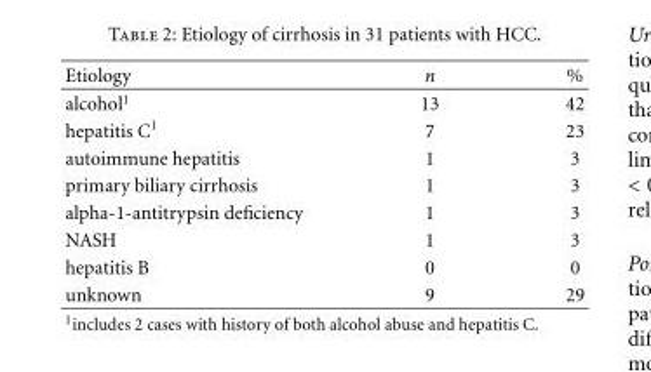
<table><thead><tr><td>Etiology</td><td>n</td><td>%</td></tr></thead><tbody><tr><td>alcohol<sup>1</sup></td><td>13</td><td>42</td></tr><tr><td>hepatitis C<sup>1</sup></td><td>7</td><td>23</td></tr><tr><td>autoimmune hepatitis</td><td>1</td><td>3</td></tr><tr><td>primary biliary cirrhosis</td><td>1</td><td>3</td></tr><tr><td>alpha-1-antitrypsin deficiency</td><td>1</td><td>3</td></tr><tr><td>NASH</td><td>1</td><td>3</td></tr><tr><td>hepatitis B</td><td>0</td><td>0</td></tr><tr><td>unknown</td><td>9</td><td>29</td></tr></tbody></table>